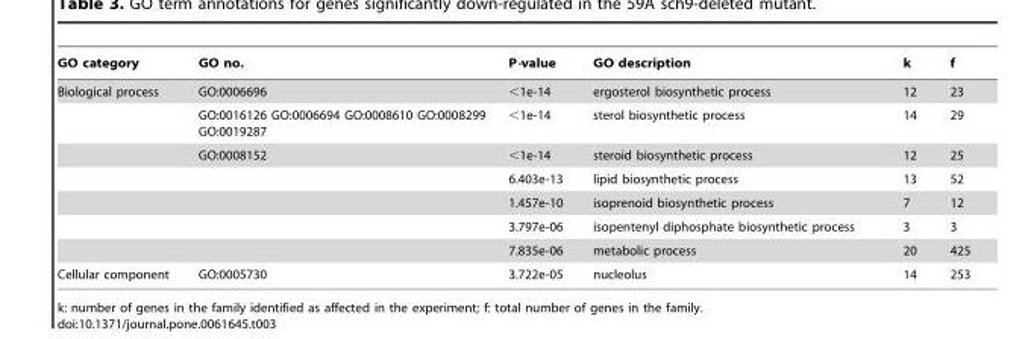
<table><thead><tr><td>GO category</td><td>GO no.</td><td>P-value</td><td>GO description</td><td>k</td><td>f</td></tr></thead><tbody><tr><td rowspan="7">Biological process</td><td>GO:0006696</td><td>&lt;1e-14</td><td>ergosterol biosynthetic process</td><td>12</td><td>23</td></tr><tr><td>GO:0016126 GO:0006694 GO:0008610 GO:0008299 GO:0019287</td><td>&lt;1e-14</td><td>sterol biosynthetic process</td><td>14</td><td>29</td></tr><tr><td>GO:0008152</td><td>&lt;1e-14</td><td>steroid biosynthetic process</td><td>12</td><td>25</td></tr><tr><td></td><td>6.403e-13</td><td>lipid biosynthetic process</td><td>13</td><td>52</td></tr><tr><td></td><td>1.457e-10</td><td>isoprenoid biosynthetic process</td><td>7</td><td>12</td></tr><tr><td></td><td>3.797e-06</td><td>isopentenyl diphosphate biosynthetic process</td><td>3</td><td>3</td></tr><tr><td></td><td>7.835e-06</td><td>metabolic process</td><td>20</td><td>425</td></tr><tr><td>Cellular component</td><td>GO:0005730</td><td>3.722e-05</td><td>nucleolus</td><td>14</td><td>253</td></tr></tbody></table>